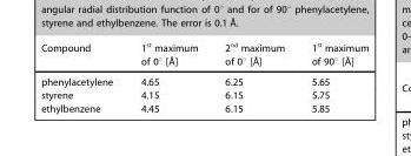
<table><thead><tr><td>Compound</td><td>1<sup>st</sup> maximum of 0° [Å]</td><td>2<sup>nd</sup> maximum of 0° [Å]</td><td>1<sup>st</sup> maximum of 90° [Å]</td></tr></thead><tbody><tr><td>phenylacetylene</td><td>4.65</td><td>6.25</td><td>5.65</td></tr><tr><td>styrene</td><td>4.15</td><td>6.15</td><td>5.75</td></tr><tr><td>ethylbenzene</td><td>4.45</td><td>6.15</td><td>5.85</td></tr></tbody></table>